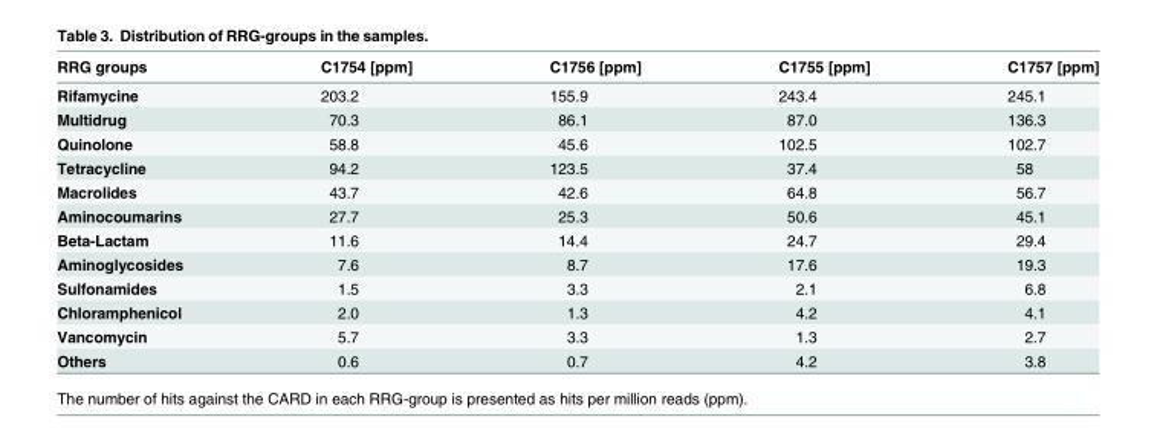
<table><thead><tr><td>RRG groups</td><td>C1754 [ppm]</td><td>C1756 [ppm]</td><td>C1755 [ppm]</td><td>C1757 [ppm]</td></tr></thead><tbody><tr><td>Rifamycine</td><td>203.2</td><td>155.9</td><td>243.4</td><td>245.1</td></tr><tr><td>Multidrug</td><td>70.3</td><td>86.1</td><td>87.0</td><td>136.3</td></tr><tr><td>Quinolone</td><td>58.8</td><td>45.6</td><td>102.5</td><td>102.7</td></tr><tr><td>Tetracycline</td><td>94.2</td><td>123.5</td><td>37.4</td><td>58</td></tr><tr><td>Macrolides</td><td>43.7</td><td>42.6</td><td>64.8</td><td>56.7</td></tr><tr><td>Aminocoumarins</td><td>27.7</td><td>25.3</td><td>50.6</td><td>45.1</td></tr><tr><td>Beta-Lactam</td><td>11.6</td><td>14.4</td><td>24.7</td><td>29.4</td></tr><tr><td>Aminoglycosides</td><td>7.6</td><td>8.7</td><td>17.6</td><td>19.3</td></tr><tr><td>Sulfonamides</td><td>1.5</td><td>3.3</td><td>2.1</td><td>6.8</td></tr><tr><td>Chloramphenicol</td><td>2.0</td><td>1.3</td><td>4.2</td><td>4.1</td></tr><tr><td>Vancomycin</td><td>5.7</td><td>3.3</td><td>1.3</td><td>2.7</td></tr><tr><td>Others</td><td>0.6</td><td>0.7</td><td>4.2</td><td>3.8</td></tr></tbody></table>